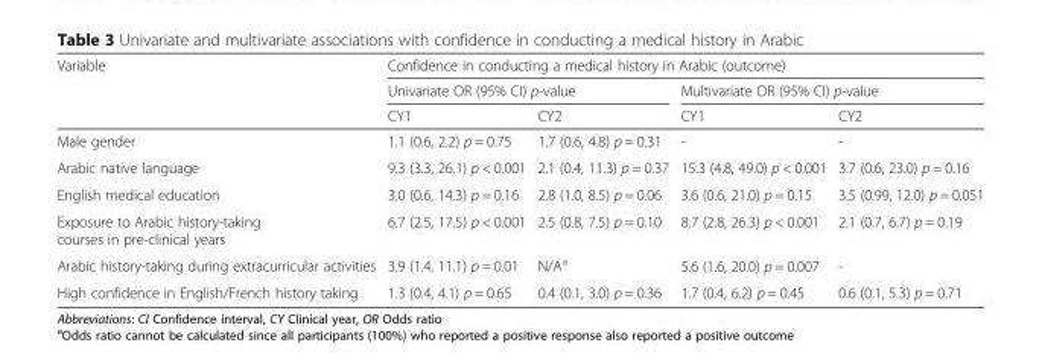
<table><thead><tr><td rowspan="3">Variable</td><td colspan="4">Confidence in conducting a medical history in Arabic (outcome)</td></tr><tr><td colspan="2">Univariate OR (95% CI) p-value</td><td colspan="2">Multivariate OR (95% CI) p-value</td></tr><tr><td>CY1</td><td>CY2</td><td>CY1</td><td>CY2</td></tr></thead><tbody><tr><td>Male gender</td><td>1.1 (0.6, 2.2) p = 0.75</td><td>1.7 (0.6, 4.8) p = 0.31</td><td>-</td><td>-</td></tr><tr><td>Arabic native language</td><td>9.3 (3.3, 26.1) p &lt; 0.001</td><td>2.1 (0.4, 11.3) p = 0.37</td><td>15.3 (4.8, 49.0) p &lt; 0.001</td><td>3.7 (0.6, 23.0) p = 0.16</td></tr><tr><td>English medical education</td><td>3.0 (0.6, 14.3) p = 0.16</td><td>2.8 (1.0, 8.5) p = 0.06</td><td>3.6 (0.6, 21.0) p = 0.15</td><td>3.5 (0.99, 12.0) p = 0.051</td></tr><tr><td>Exposure to Arabic history-taking courses in pre-clinical years</td><td>6.7 (2.5, 17.5) p &lt; 0.001</td><td>2.5 (0.8, 7.5) p = 0.10</td><td>8.7 (2.8, 26.3) p &lt; 0.001</td><td>2.1 (0.7, 6.7) p = 0.19</td></tr><tr><td>Arabic history-taking during extracurricular activities</td><td>3.9 (1.4, 11.1) p = 0.01</td><td>N/A<sup>a</sup></td><td>5.6 (1.6, 20.0) p = 0.007</td><td>-</td></tr><tr><td>High confidence in English/French history taking</td><td>1.3 (0.4, 4.1) p = 0.65</td><td>0.4 (0.1, 3.0) p = 0.36</td><td>1.7 (0.4, 6.2) p = 0.45</td><td>0.6 (0.1, 5.3) p = 0.71</td></tr></tbody></table>